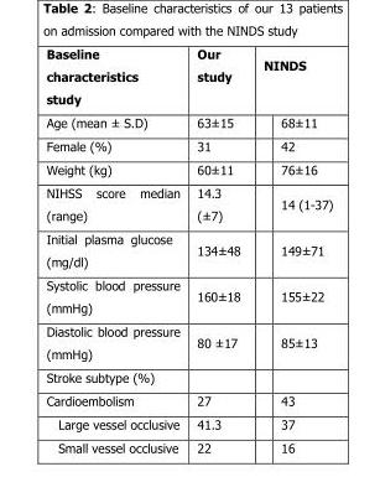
<table><thead><tr><td>Baseline characteristics study</td><td>Our study</td><td>NINDS</td></tr></thead><tbody><tr><td>Age (mean ± S.D)</td><td>63±15</td><td>68±11</td></tr><tr><td>Female (%)</td><td>31</td><td>42</td></tr><tr><td>Weight (kg)</td><td>60±11</td><td>76±16</td></tr><tr><td>NIHSS score median (range)</td><td>14.3 (±7)</td><td>14 (1-37)</td></tr><tr><td>Initial plasma glucose (mg/dl)</td><td>134±48</td><td>149±71</td></tr><tr><td>Systolic blood pressure (mmHg)</td><td>160±18</td><td>155±22</td></tr><tr><td>Diastolic blood pressure (mmHg)</td><td>80 ±17</td><td>85±13</td></tr><tr><td colspan="3">Stroke subtype (%)</td></tr><tr><td>Cardioembolism</td><td>27</td><td>43</td></tr><tr><td>Large vessel occlusive</td><td>41.3</td><td>37</td></tr><tr><td>Small vessel occlusive</td><td>22</td><td>16</td></tr></tbody></table>